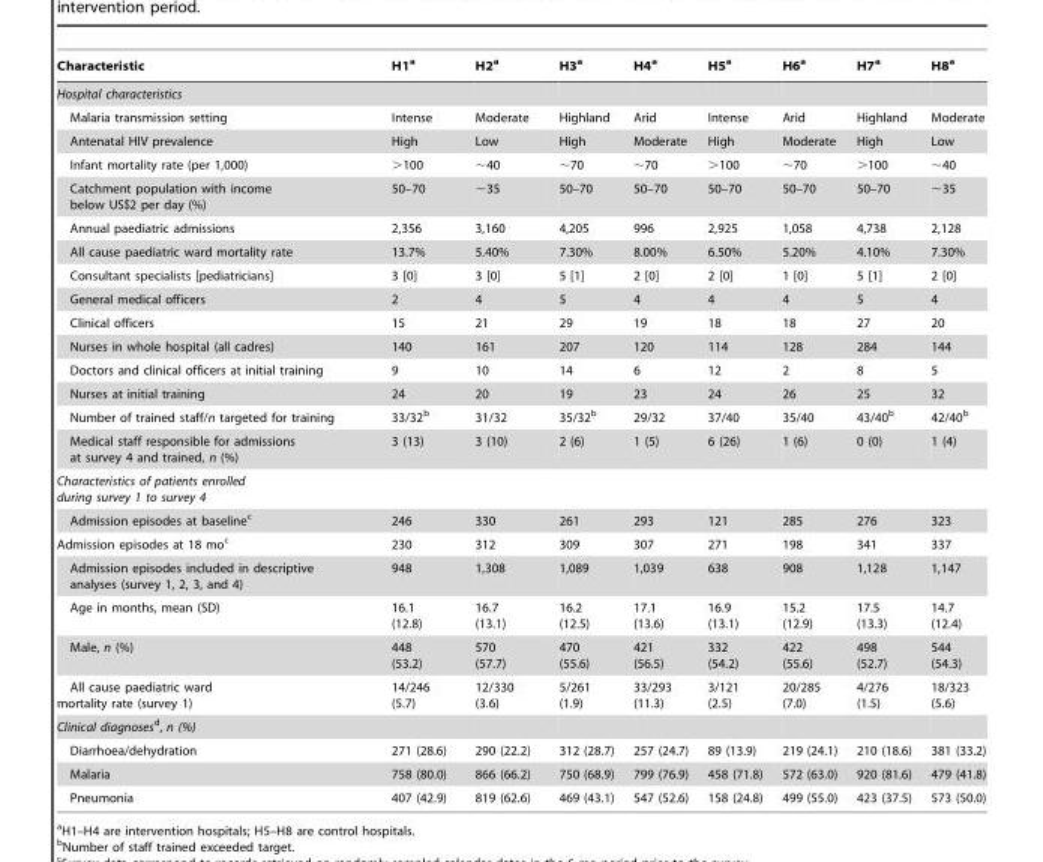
<table><thead><tr><td>Characteristic</td><td>H1<sup>a</sup></td><td>H2<sup>a</sup></td><td>H3<sup>a</sup></td><td>H4<sup>a</sup></td><td>H5<sup>a</sup></td><td>H6<sup>a</sup></td><td>H7<sup>a</sup></td><td>H8<sup>a</sup></td></tr></thead><tbody><tr><td colspan="9">Hospital characteristics</td></tr><tr><td>Malaria transmission setting</td><td>Intense</td><td>Moderate</td><td>Highland</td><td>Arid</td><td>Intense</td><td>Arid</td><td>Highland</td><td>Moderate</td></tr><tr><td>Antenatal HIV prevalence</td><td>High</td><td>Low</td><td>High</td><td>Moderate</td><td>High</td><td>Moderate</td><td>High</td><td>Low</td></tr><tr><td>Infant mortality rate (per 1,000)</td><td>&gt;100</td><td>∼40</td><td>∼70</td><td>∼70</td><td>&gt;100</td><td>∼70</td><td>&gt;100</td><td>∼40</td></tr><tr><td>Catchment population with income below US$2 per day (%)</td><td>50–70</td><td>∼35</td><td>50–70</td><td>50–70</td><td>50–70</td><td>50–70</td><td>50–70</td><td>∼35</td></tr><tr><td>Annual paediatric admissions</td><td>2,356</td><td>3,160</td><td>4,205</td><td>996</td><td>2,925</td><td>1,058</td><td>4,738</td><td>2,128</td></tr><tr><td>All cause paediatric ward mortality rate</td><td>13.7%</td><td>5.40%</td><td>7.30%</td><td>8.00%</td><td>6.50%</td><td>5.20%</td><td>4.10%</td><td>7.30%</td></tr><tr><td>Consultant specialists [pediatricians]</td><td>3 [0]</td><td>3 [0]</td><td>5 [1]</td><td>2 [0]</td><td>2 [0]</td><td>1 [0]</td><td>5 [1]</td><td>2 [0]</td></tr><tr><td>General medical officers</td><td>2</td><td>4</td><td>5</td><td>4</td><td>4</td><td>4</td><td>5</td><td>4</td></tr><tr><td>Clinical officers</td><td>15</td><td>21</td><td>29</td><td>19</td><td>18</td><td>18</td><td>27</td><td>20</td></tr><tr><td>Nurses in whole hospital (all cadres)</td><td>140</td><td>161</td><td>207</td><td>120</td><td>114</td><td>128</td><td>284</td><td>144</td></tr><tr><td>Doctors and clinical officers at initial training</td><td>9</td><td>10</td><td>14</td><td>6</td><td>12</td><td>2</td><td>8</td><td>5</td></tr><tr><td>Nurses at initial training</td><td>24</td><td>20</td><td>19</td><td>23</td><td>24</td><td>26</td><td>25</td><td>32</td></tr><tr><td>Number of trained staff/n targeted for training</td><td>33/32<sup>b</sup></td><td>31/32</td><td>35/32<sup>b</sup></td><td>29/32</td><td>37/40</td><td>35/40</td><td>43/40<sup>b</sup></td><td>42/40<sup>b</sup></td></tr><tr><td>Medical staff responsible for admissions at survey 4 and trained, n (%)</td><td>3 (13)</td><td>3 (10)</td><td>2 (6)</td><td>1 (5)</td><td>6 (26)</td><td>1 (6)</td><td>0 (0)</td><td>1 (4)</td></tr><tr><td colspan="9">Characteristics of patients enrolled during survey 1 to survey 4</td></tr><tr><td>Admission episodes at baseline<sup>c</sup></td><td>246</td><td>330</td><td>261</td><td>293</td><td>121</td><td>285</td><td>276</td><td>323</td></tr><tr><td>Admission episodes at 18 mo<sup>c</sup></td><td>230</td><td>312</td><td>309</td><td>307</td><td>271</td><td>198</td><td>341</td><td>337</td></tr><tr><td>Admission episodes included in descriptive analyses (survey 1, 2, 3, and 4)</td><td>948</td><td>1,308</td><td>1,089</td><td>1,039</td><td>638</td><td>908</td><td>1,128</td><td>1,147</td></tr><tr><td>Age in months, mean (SD)</td><td>16.1 (12.8)</td><td>16.7 (13.1)</td><td>16.2 (12.5)</td><td>17.1 (13.6)</td><td>16.9 (13.1)</td><td>15.2 (12.9)</td><td>17.5 (13.3)</td><td>14.7 (12.4)</td></tr><tr><td>Male, n (%)</td><td>448 (53.2)</td><td>570 (57.7)</td><td>470 (55.6)</td><td>421 (56.5)</td><td>332 (54.2)</td><td>422 (55.6)</td><td>498 (52.7)</td><td>544 (54.3)</td></tr><tr><td>All cause paediatric ward mortality rate (survey 1)</td><td>14/246 (5.7)</td><td>12/330 (3.6)</td><td>5/261 (1.9)</td><td>33/293 (11.3)</td><td>3/121 (2.5)</td><td>20/285 (7.0)</td><td>4/276 (1.5)</td><td>18/323 (5.6)</td></tr><tr><td colspan="9">Clinical diagnosesd, n (%)</td></tr><tr><td>Diarrhoea/dehydration</td><td>271 (28.6)</td><td>290 (22.2)</td><td>312 (28.7)</td><td>257 (24.7)</td><td>89 (13.9)</td><td>219 (24.1)</td><td>210 (18.6)</td><td>381 (33.2)</td></tr><tr><td>Malaria</td><td>758 (80.0)</td><td>866 (66.2)</td><td>750 (68.9)</td><td>799 (76.9)</td><td>458 (71.8)</td><td>572 (63.0)</td><td>920 (81.6)</td><td>479 (41.8)</td></tr><tr><td>Pneumonia</td><td>407 (42.9)</td><td>819 (62.6)</td><td>469 (43.1)</td><td>547 (52.6)</td><td>158 (24.8)</td><td>499 (55.0)</td><td>423 (37.5)</td><td>573 (50.0)</td></tr></tbody></table>